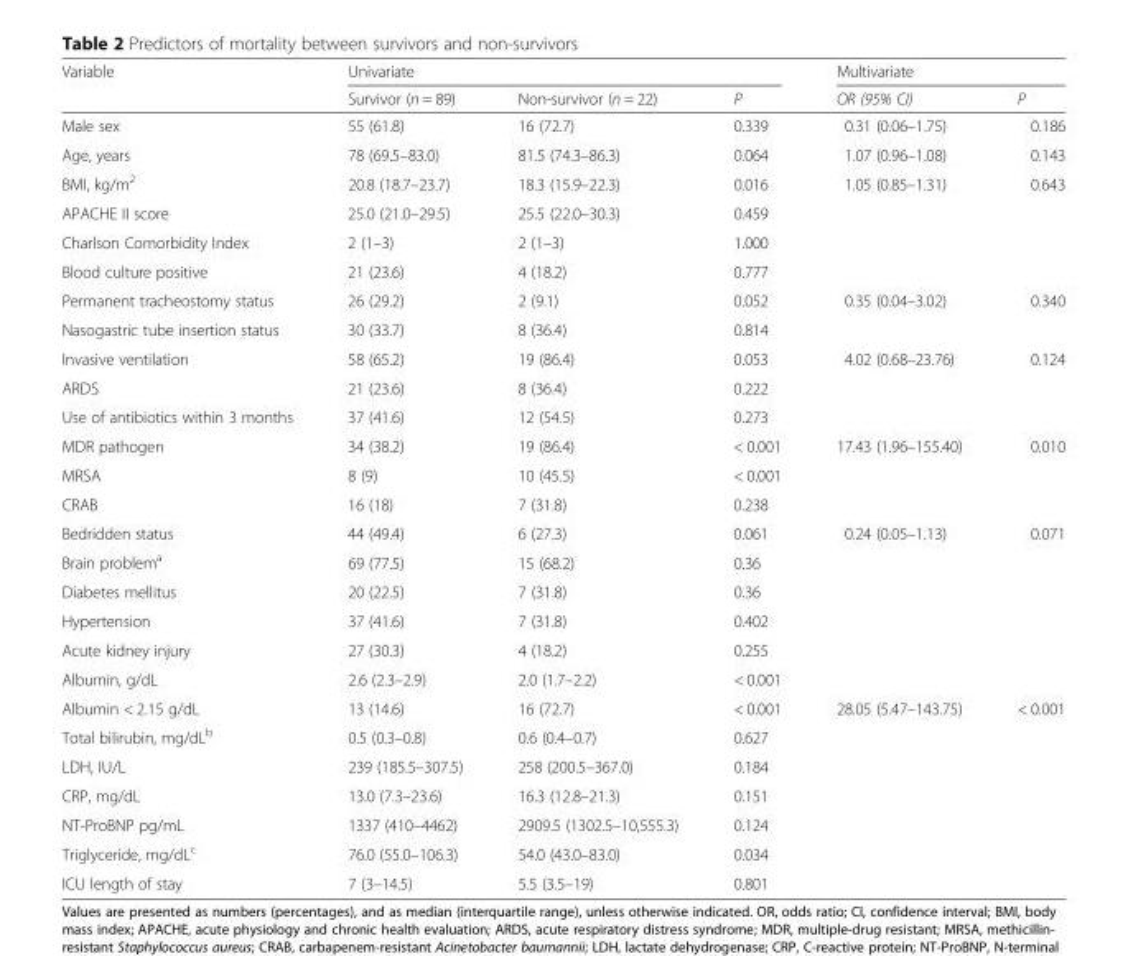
<table><thead><tr><td rowspan="2">Variable</td><td colspan="3">Univariate</td><td colspan="2">Multivariate</td></tr><tr><td>Survivor (n = 89)</td><td>Non-survivor (n = 22)</td><td>P</td><td>OR (95% CI)</td><td>P</td></tr></thead><tbody><tr><td>Male sex</td><td>55 (61.8)</td><td>16 (72.7)</td><td>0.339</td><td>0.31 (0.06–1.75)</td><td>0.186</td></tr><tr><td>Age, years</td><td>78 (69.5–83.0)</td><td>81.5 (74.3–86.3)</td><td>0.064</td><td>1.07 (0.96–1.08)</td><td>0.143</td></tr><tr><td>BMI, kg/m<sup>2</sup></td><td>20.8 (18.7–23.7)</td><td>18.3 (15.9–22.3)</td><td>0.016</td><td>1.05 (0.85–1.31)</td><td>0.643</td></tr><tr><td>APACHE II score</td><td>25.0 (21.0–29.5)</td><td>25.5 (22.0–30.3)</td><td>0.459</td><td></td><td></td></tr><tr><td>Charlson Comorbidity Index</td><td>2 (1–3)</td><td>2 (1–3)</td><td>1.000</td><td></td><td></td></tr><tr><td>Blood culture positive</td><td>21 (23.6)</td><td>4 (18.2)</td><td>0.777</td><td></td><td></td></tr><tr><td>Permanent tracheostomy status</td><td>26 (29.2)</td><td>2 (9.1)</td><td>0.052</td><td>0.35 (0.04–3.02)</td><td>0.340</td></tr><tr><td>Nasogastric tube insertion status</td><td>30 (33.7)</td><td>8 (36.4)</td><td>0.814</td><td></td><td></td></tr><tr><td>Invasive ventilation</td><td>58 (65.2)</td><td>19 (86.4)</td><td>0.053</td><td>4.02 (0.68–23.76)</td><td>0.124</td></tr><tr><td>ARDS</td><td>21 (23.6)</td><td>8 (36.4)</td><td>0.222</td><td></td><td></td></tr><tr><td>Use of antibiotics within 3 months</td><td>37 (41.6)</td><td>12 (54.5)</td><td>0.273</td><td></td><td></td></tr><tr><td>MDR pathogen</td><td>34 (38.2)</td><td>19 (86.4)</td><td>&lt; 0.001</td><td>17.43 (1.96–155.40)</td><td>0.010</td></tr><tr><td>MRSA</td><td>8 (9)</td><td>10 (45.5)</td><td>&lt; 0.001</td><td></td><td></td></tr><tr><td>CRAB</td><td>16 (18)</td><td>7 (31.8)</td><td>0.238</td><td></td><td></td></tr><tr><td>Bedridden status</td><td>44 (49.4)</td><td>6 (27.3)</td><td>0.061</td><td>0.24 (0.05–1.13)</td><td>0.071</td></tr><tr><td>Brain problem<sup>a</sup></td><td>69 (77.5)</td><td>15 (68.2)</td><td>0.36</td><td></td><td></td></tr><tr><td>Diabetes mellitus</td><td>20 (22.5)</td><td>7 (31.8)</td><td>0.36</td><td></td><td></td></tr><tr><td>Hypertension</td><td>37 (41.6)</td><td>7 (31.8)</td><td>0.402</td><td></td><td></td></tr><tr><td>Acute kidney injury</td><td>27 (30.3)</td><td>4 (18.2)</td><td>0.255</td><td></td><td></td></tr><tr><td>Albumin, g/dL</td><td>2.6 (2.3–2.9)</td><td>2.0 (1.7–2.2)</td><td>&lt; 0.001</td><td></td><td></td></tr><tr><td>Albumin &lt; 2.15 g/dL</td><td>13 (14.6)</td><td>16 (72.7)</td><td>&lt; 0.001</td><td>28.05 (5.47–143.75)</td><td>&lt; 0.001</td></tr><tr><td>Total bilirubin, mg/dL<sup>b</sup></td><td>0.5 (0.3–0.8)</td><td>0.6 (0.4–0.7)</td><td>0.627</td><td></td><td></td></tr><tr><td>LDH, IU/L</td><td>239 (185.5–307.5)</td><td>258 (200.5–367.0)</td><td>0.184</td><td></td><td></td></tr><tr><td>CRP, mg/dL</td><td>13.0 (7.3–23.6)</td><td>16.3 (12.8–21.3)</td><td>0.151</td><td></td><td></td></tr><tr><td>NT-ProBNP pg/mL</td><td>1337 (410–4462)</td><td>2909.5 (1302.5–10,555.3)</td><td>0.124</td><td></td><td></td></tr><tr><td>Triglyceride, mg/dL<sup>c</sup></td><td>76.0 (55.0–106.3)</td><td>54.0 (43.0–83.0)</td><td>0.034</td><td></td><td></td></tr><tr><td>ICU length of stay</td><td>7 (3–14.5)</td><td>5.5 (3.5–19)</td><td>0.801</td><td></td><td></td></tr></tbody></table>